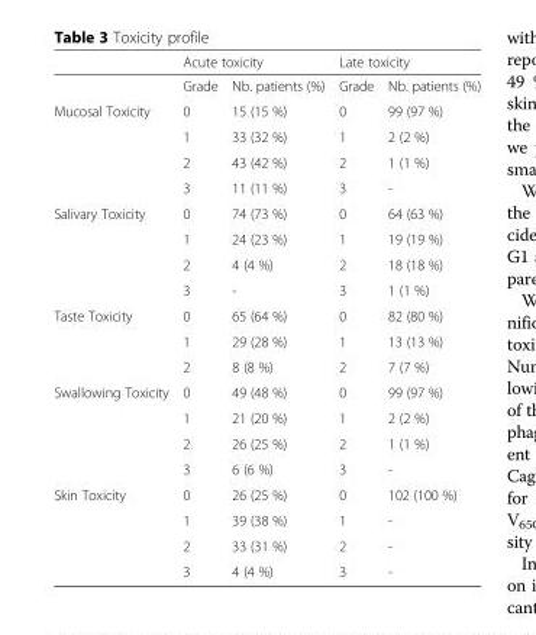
<table><thead><tr><td rowspan="2"></td><td colspan="2">Acute toxicity</td><td colspan="2">Late toxicity</td></tr><tr><td>Grade</td><td>Nb. patients (%)</td><td>Grade</td><td>Nb. patients (%)</td></tr></thead><tbody><tr><td rowspan="4">Mucosal Toxicity</td><td>0</td><td>15 (15 %)</td><td>0</td><td>99 (97 %)</td></tr><tr><td>1</td><td>33 (32 %)</td><td>1</td><td>2 (2 %)</td></tr><tr><td>2</td><td>43 (42 %)</td><td>2</td><td>1 (1 %)</td></tr><tr><td>3</td><td>11 (11 %)</td><td>3</td><td>-</td></tr><tr><td rowspan="4">Salivary Toxicity</td><td>0</td><td>74 (73 %)</td><td>0</td><td>64 (63 %)</td></tr><tr><td>1</td><td>24 (23 %)</td><td>1</td><td>19 (19 %)</td></tr><tr><td>2</td><td>4 (4 %)</td><td>2</td><td>18 (18 %)</td></tr><tr><td>3</td><td>-</td><td>3</td><td>1 (1 %)</td></tr><tr><td rowspan="3">Taste Toxicity</td><td>0</td><td>65 (64 %)</td><td>0</td><td>82 (80 %)</td></tr><tr><td>1</td><td>29 (28 %)</td><td>1</td><td>13 (13 %)</td></tr><tr><td>2</td><td>8 (8 %)</td><td>2</td><td>7 (7 %)</td></tr><tr><td rowspan="4">Swallowing Toxicity</td><td>0</td><td>49 (48 %)</td><td>0</td><td>99 (97 %)</td></tr><tr><td>1</td><td>21 (20 %)</td><td>1</td><td>2 (2 %)</td></tr><tr><td>2</td><td>26 (25 %)</td><td>2</td><td>1 (1 %)</td></tr><tr><td>3</td><td>6 (6 %)</td><td>3</td><td>-</td></tr><tr><td rowspan="4">Skin Toxicity</td><td>0</td><td>26 (25 %)</td><td>0</td><td>102 (100 %)</td></tr><tr><td>1</td><td>39 (38 %)</td><td>1</td><td>-</td></tr><tr><td>2</td><td>33 (31 %)</td><td>2</td><td>-</td></tr><tr><td>3</td><td>4 (4 %)</td><td>3</td><td>-</td></tr></tbody></table>